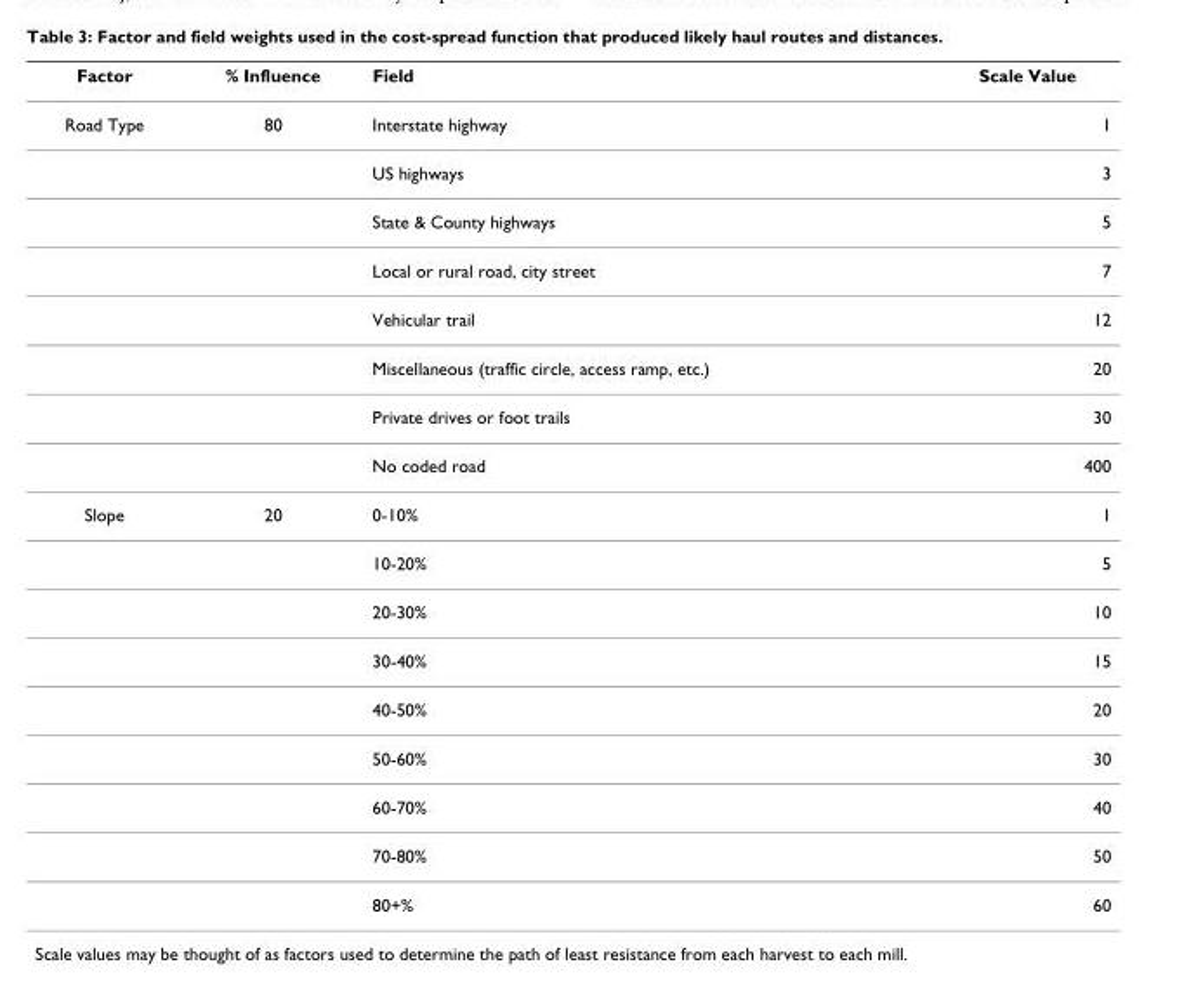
<table><thead><tr><td>Factor</td><td>% Influence</td><td>Field</td><td>Scale Value</td></tr></thead><tbody><tr><td rowspan="8">Road Type</td><td>80</td><td>Interstate highway</td><td>1</td></tr><tr><td></td><td>US highways</td><td>3</td></tr><tr><td></td><td>State &amp; County highways</td><td>5</td></tr><tr><td></td><td>Local or rural road, city street</td><td>7</td></tr><tr><td></td><td>Vehicular trail</td><td>12</td></tr><tr><td></td><td>Miscellaneous (traffic circle, access ramp, etc.)</td><td>20</td></tr><tr><td></td><td>Private drives or foot trails</td><td>30</td></tr><tr><td></td><td>No coded road</td><td>400</td></tr><tr><td rowspan="9">Slope</td><td>20</td><td>0-10%</td><td>1</td></tr><tr><td></td><td>10-20%</td><td>5</td></tr><tr><td></td><td>20-30%</td><td>10</td></tr><tr><td></td><td>30-40%</td><td>15</td></tr><tr><td></td><td>40-50%</td><td>20</td></tr><tr><td></td><td>50-60%</td><td>30</td></tr><tr><td></td><td>60-70%</td><td>40</td></tr><tr><td></td><td>70-80%</td><td>50</td></tr><tr><td></td><td>80+%</td><td>60</td></tr></tbody></table>